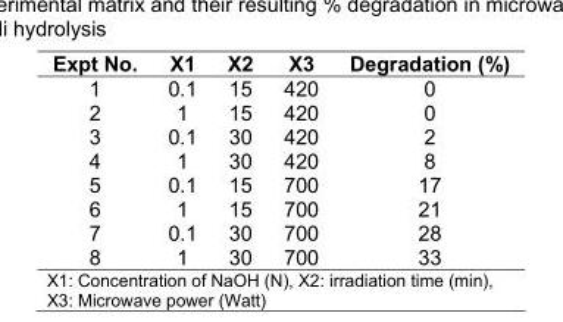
<table><thead><tr><td>Expt No.</td><td>X1</td><td>X2</td><td>X3</td><td>Degradation (%)</td></tr></thead><tbody><tr><td>1</td><td>0.1</td><td>15</td><td>420</td><td>0</td></tr><tr><td>2</td><td>1</td><td>15</td><td>420</td><td>0</td></tr><tr><td>3</td><td>0.1</td><td>30</td><td>420</td><td>2</td></tr><tr><td>4</td><td>1</td><td>30</td><td>420</td><td>8</td></tr><tr><td>5</td><td>0.1</td><td>15</td><td>700</td><td>17</td></tr><tr><td>6</td><td>1</td><td>15</td><td>700</td><td>21</td></tr><tr><td>7</td><td>0.1</td><td>30</td><td>700</td><td>28</td></tr><tr><td>8</td><td>1</td><td>30</td><td>700</td><td>33</td></tr></tbody></table>